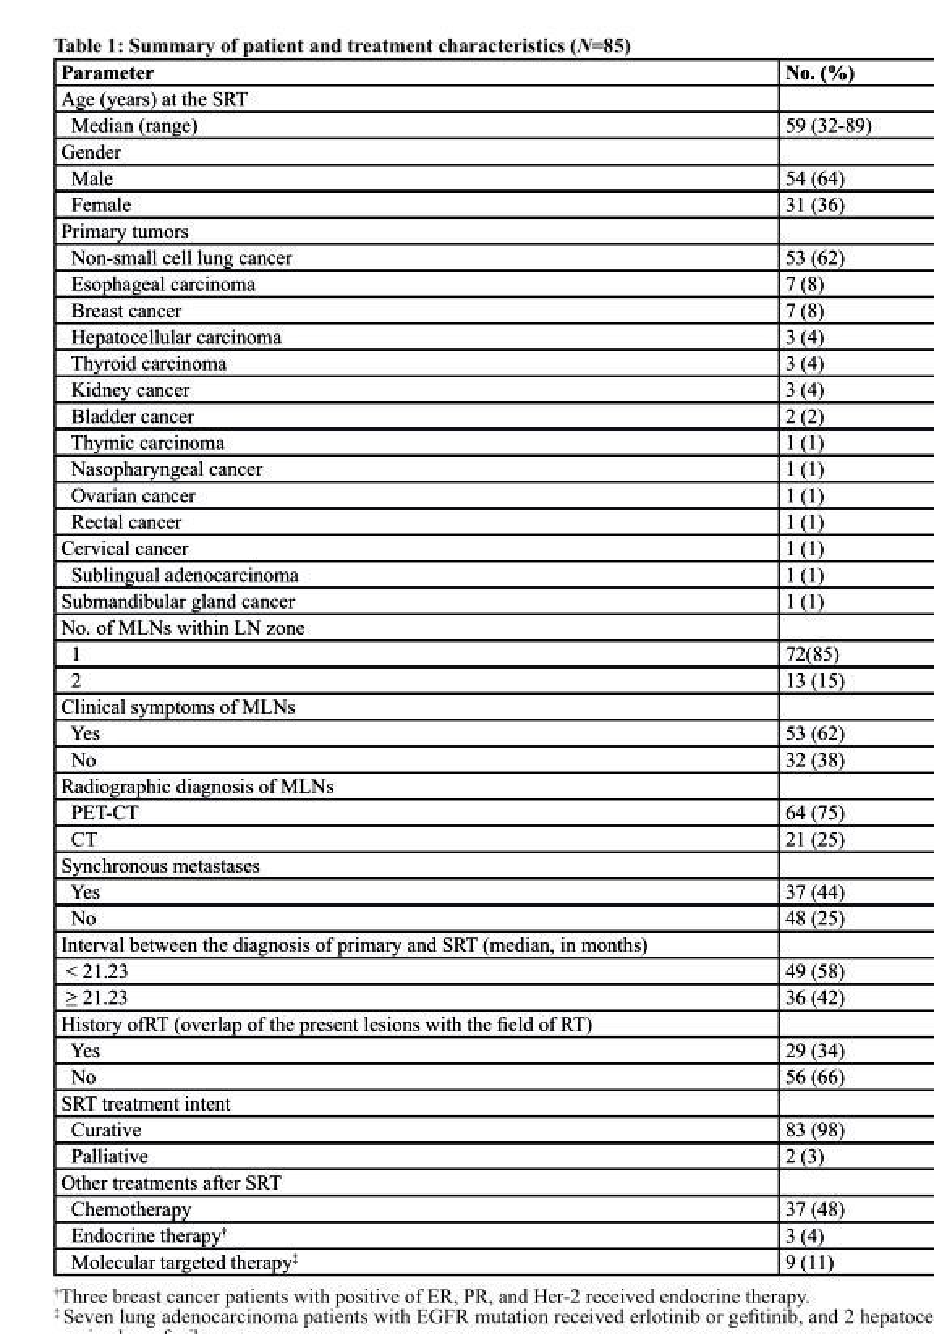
<table><thead><tr><td>Parameter</td><td>No. (%)</td></tr></thead><tbody><tr><td colspan="2">Age (years) at the SRT</td></tr><tr><td>Median (range)</td><td>59 (32-89)</td></tr><tr><td colspan="2">Gender</td></tr><tr><td>Male</td><td>54 (64)</td></tr><tr><td>Female</td><td>31 (36)</td></tr><tr><td colspan="2">Primary tumors</td></tr><tr><td>Non-small cell lung cancer</td><td>53 (62)</td></tr><tr><td>Esophageal carcinoma</td><td>7 (8)</td></tr><tr><td>Breast cancer</td><td>7 (8)</td></tr><tr><td>Hepatocellular carcinoma</td><td>3 (4)</td></tr><tr><td>Thyroid carcinoma</td><td>3 (4)</td></tr><tr><td>Kidney cancer</td><td>3 (4)</td></tr><tr><td>Bladder cancer</td><td>2 (2)</td></tr><tr><td>Thymic carcinoma</td><td>1 (1)</td></tr><tr><td>Nasopharyngeal cancer</td><td>1 (1)</td></tr><tr><td>Ovarian cancer</td><td>1 (1)</td></tr><tr><td>Rectal cancer</td><td>1 (1)</td></tr><tr><td>Cervical cancer</td><td>1 (1)</td></tr><tr><td>Sublingual adenocarcinoma</td><td>1 (1)</td></tr><tr><td>Submandibular gland cancer</td><td>1 (1)</td></tr><tr><td colspan="2">No. of MLNs within LN zone</td></tr><tr><td>1</td><td>72(85)</td></tr><tr><td>2</td><td>13 (15)</td></tr><tr><td colspan="2">Clinical symptoms of MLNs</td></tr><tr><td>Yes</td><td>53 (62)</td></tr><tr><td>No</td><td>32 (38)</td></tr><tr><td colspan="2">Radiographic diagnosis of MLNs</td></tr><tr><td>PET-CT</td><td>64 (75)</td></tr><tr><td>CT</td><td>21 (25)</td></tr><tr><td colspan="2">Synchronous metastases</td></tr><tr><td>Yes</td><td>37 (44)</td></tr><tr><td>No</td><td>48 (25)</td></tr><tr><td colspan="2">Interval between the diagnosis of primary and SRT (median, in months)</td></tr><tr><td>&lt; 21.23</td><td>49 (58)</td></tr><tr><td>≥ 21.23</td><td>36 (42)</td></tr><tr><td colspan="2">History ofRT (overlap of the present lesions with the field of RT)</td></tr><tr><td>Yes</td><td>29 (34)</td></tr><tr><td>No</td><td>56 (66)</td></tr><tr><td colspan="2">SRT treatment intent</td></tr><tr><td>Curative</td><td>83 (98)</td></tr><tr><td>Palliative</td><td>2 (3)</td></tr><tr><td colspan="2">Other treatments after SRT</td></tr><tr><td>Chemotherapy</td><td>37 (48)</td></tr><tr><td>Endocrine therapy<sup>†</sup></td><td>3 (4)</td></tr><tr><td>Molecular targeted therapy<sup>‡</sup></td><td>9 (11)</td></tr></tbody></table>